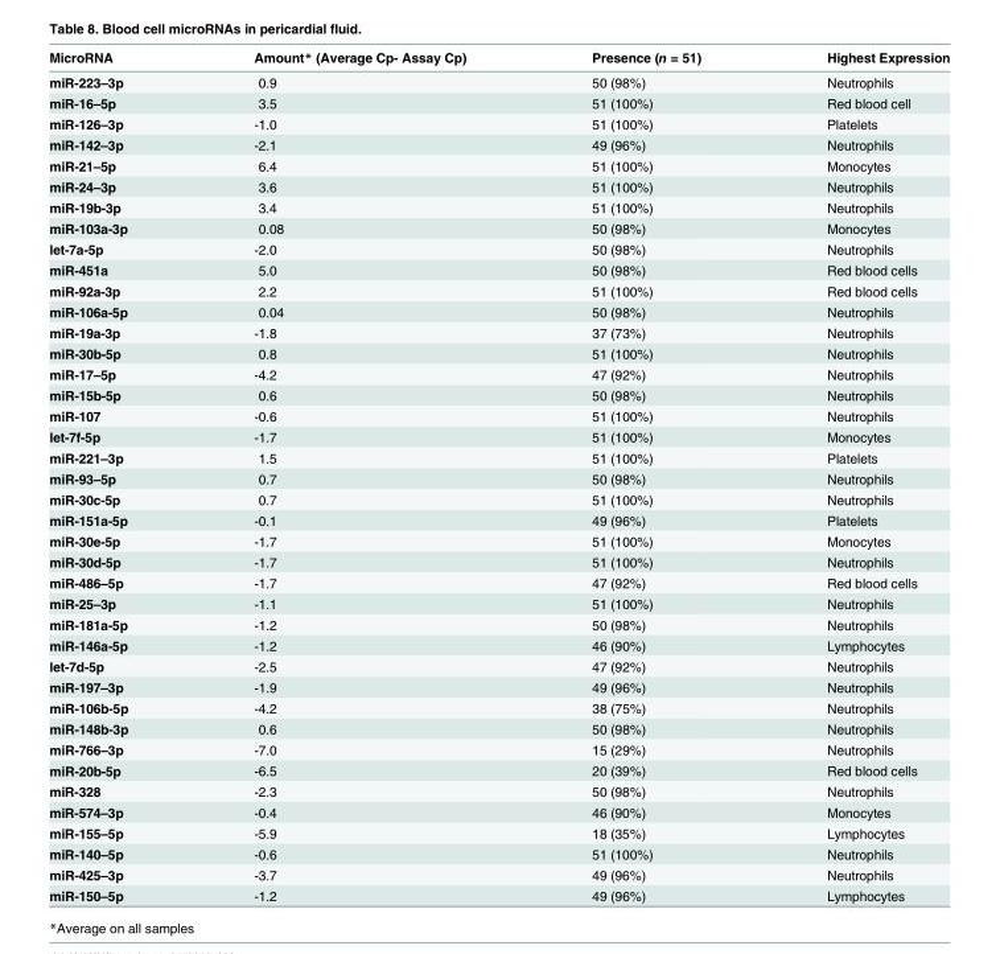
<table><thead><tr><td>MicroRNA</td><td>Amount* (Average Cp- Assay Cp)</td><td>Presence (n = 51)</td><td>Highest Expression</td></tr></thead><tbody><tr><td>miR-223–3p</td><td>0.9</td><td>50 (98%)</td><td>Neutrophils</td></tr><tr><td>miR-16–5p</td><td>3.5</td><td>51 (100%)</td><td>Red blood cell</td></tr><tr><td>miR-126–3p</td><td>-1.0</td><td>51 (100%)</td><td>Platelets</td></tr><tr><td>miR-142–3p</td><td>-2.1</td><td>49 (96%)</td><td>Neutrophils</td></tr><tr><td>miR-21–5p</td><td>6.4</td><td>51 (100%)</td><td>Monocytes</td></tr><tr><td>miR-24–3p</td><td>3.6</td><td>51 (100%)</td><td>Neutrophils</td></tr><tr><td>miR-19b-3p</td><td>3.4</td><td>51 (100%)</td><td>Neutrophils</td></tr><tr><td>miR-103a-3p</td><td>0.08</td><td>50 (98%)</td><td>Monocytes</td></tr><tr><td>let-7a-5p</td><td>-2.0</td><td>50 (98%)</td><td>Neutrophils</td></tr><tr><td>miR-451a</td><td>5.0</td><td>50 (98%)</td><td>Red blood cells</td></tr><tr><td>miR-92a-3p</td><td>2.2</td><td>51 (100%)</td><td>Red blood cells</td></tr><tr><td>miR-106a-5p</td><td>0.04</td><td>50 (98%)</td><td>Neutrophils</td></tr><tr><td>miR-19a-3p</td><td>-1.8</td><td>37 (73%)</td><td>Neutrophils</td></tr><tr><td>miR-30b-5p</td><td>0.8</td><td>51 (100%)</td><td>Neutrophils</td></tr><tr><td>miR-17–5p</td><td>-4.2</td><td>47 (92%)</td><td>Neutrophils</td></tr><tr><td>miR-15b-5p</td><td>0.6</td><td>50 (98%)</td><td>Neutrophils</td></tr><tr><td>miR-107</td><td>-0.6</td><td>51 (100%)</td><td>Neutrophils</td></tr><tr><td>let-7f-5p</td><td>-1.7</td><td>51 (100%)</td><td>Monocytes</td></tr><tr><td>miR-221–3p</td><td>1.5</td><td>51 (100%)</td><td>Platelets</td></tr><tr><td>miR-93–5p</td><td>0.7</td><td>50 (98%)</td><td>Neutrophils</td></tr><tr><td>miR-30c-5p</td><td>0.7</td><td>51 (100%)</td><td>Neutrophils</td></tr><tr><td>miR-151a-5p</td><td>-0.1</td><td>49 (96%)</td><td>Platelets</td></tr><tr><td>miR-30e-5p</td><td>-1.7</td><td>51 (100%)</td><td>Monocytes</td></tr><tr><td>miR-30d-5p</td><td>-1.7</td><td>51 (100%)</td><td>Neutrophils</td></tr><tr><td>miR-486–5p</td><td>-1.7</td><td>47 (92%)</td><td>Red blood cells</td></tr><tr><td>miR-25–3p</td><td>-1.1</td><td>51 (100%)</td><td>Neutrophils</td></tr><tr><td>miR-181a-5p</td><td>-1.2</td><td>50 (98%)</td><td>Neutrophils</td></tr><tr><td>miR-146a-5p</td><td>-1.2</td><td>46 (90%)</td><td>Lymphocytes</td></tr><tr><td>let-7d-5p</td><td>-2.5</td><td>47 (92%)</td><td>Neutrophils</td></tr><tr><td>miR-197–3p</td><td>-1.9</td><td>49 (96%)</td><td>Neutrophils</td></tr><tr><td>miR-106b-5p</td><td>-4.2</td><td>38 (75%)</td><td>Neutrophils</td></tr><tr><td>miR-148b-3p</td><td>0.6</td><td>50 (98%)</td><td>Neutrophils</td></tr><tr><td>miR-766–3p</td><td>-7.0</td><td>15 (29%)</td><td>Neutrophils</td></tr><tr><td>miR-20b-5p</td><td>-6.5</td><td>20 (39%)</td><td>Red blood cells</td></tr><tr><td>miR-328</td><td>-2.3</td><td>50 (98%)</td><td>Neutrophils</td></tr><tr><td>miR-574–3p</td><td>-0.4</td><td>46 (90%)</td><td>Monocytes</td></tr><tr><td>miR-155–5p</td><td>-5.9</td><td>18 (35%)</td><td>Lymphocytes</td></tr><tr><td>miR-140–5p</td><td>-0.6</td><td>51 (100%)</td><td>Neutrophils</td></tr><tr><td>miR-425–3p</td><td>-3.7</td><td>49 (96%)</td><td>Neutrophils</td></tr><tr><td>miR-150–5p</td><td>-1.2</td><td>49 (96%)</td><td>Lymphocytes</td></tr></tbody></table>